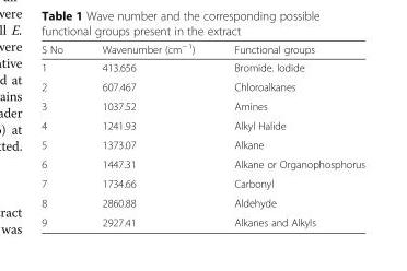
<table><thead><tr><td>S No</td><td>Wavenumber (cm<sup>− 1</sup>)</td><td>Functional groups</td></tr></thead><tbody><tr><td>1</td><td>413.656</td><td>Bromide. Iodide</td></tr><tr><td>2</td><td>607.467</td><td>Chloroalkanes</td></tr><tr><td>3</td><td>1037.52</td><td>Amines</td></tr><tr><td>4</td><td>1241.93</td><td>Alkyl Halide</td></tr><tr><td>5</td><td>1373.07</td><td>Alkane</td></tr><tr><td>6</td><td>1447.31</td><td>Alkane or Organophosphorus</td></tr><tr><td>7</td><td>1734.66</td><td>Carbonyl</td></tr><tr><td>8</td><td>2860.88</td><td>Aldehyde</td></tr><tr><td>9</td><td>2927.41</td><td>Alkanes and Alkyls</td></tr></tbody></table>